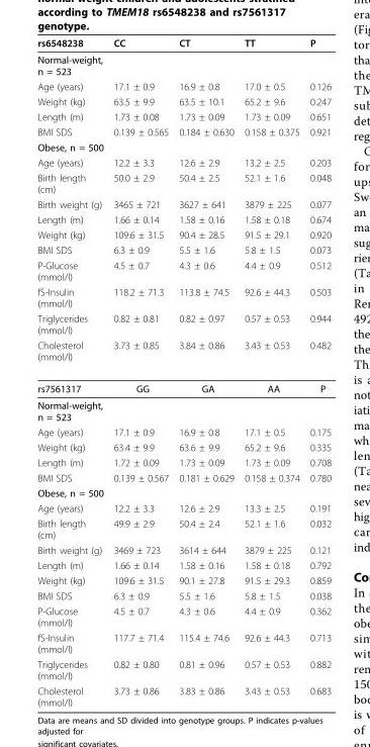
<table><thead><tr><td>rs6548238</td><td>CC</td><td>CT</td><td>TT</td><td>P</td></tr></thead><tbody><tr><td colspan="5">Normal-weight, n = 523</td></tr><tr><td>Age (years)</td><td>17.1 ± 0.9</td><td>16.9 ± 0.8</td><td>17.0 ± 0.5</td><td>0.126</td></tr><tr><td>Weight (kg)</td><td>63.5 ± 9.9</td><td>63.5 ± 10.1</td><td>65.2 ± 9.6</td><td>0.247</td></tr><tr><td>Length (m)</td><td>1.73 ± 0.08</td><td>1.73 ± 0.09</td><td>1.73 ± 0.09</td><td>0.651</td></tr><tr><td>BMI SDS</td><td>0.139 ± 0.565</td><td>0.184 ± 0.630</td><td>0.158 ± 0.375</td><td>0.921</td></tr><tr><td colspan="5">Obese, n = 500</td></tr><tr><td>Age (years)</td><td>12.2 ± 3.3</td><td>12.6 ± 2.9</td><td>13.2 ± 2.5</td><td>0.203</td></tr><tr><td>Birth length (cm)</td><td>50.0 ± 2.9</td><td>50.4 ± 2.5</td><td>52.1 ± 1.6</td><td>0.048</td></tr><tr><td>Birth weight (g)</td><td>3465 ± 721</td><td>3627 ± 641</td><td>3879 ± 225</td><td>0.077</td></tr><tr><td>Length (m)</td><td>1.66 ± 0.14</td><td>1.58 ± 0.16</td><td>1.58 ± 0.18</td><td>0.674</td></tr><tr><td>Weight (kg)</td><td>109.6 ± 31.5</td><td>90.4 ± 28.5</td><td>91.5 ± 29.1</td><td>0.920</td></tr><tr><td>BMI SDS</td><td>6.3 ± 0.9</td><td>5.5 ± 1.6</td><td>5.8 ± 1.5</td><td>0.073</td></tr><tr><td>P-Glucose (mmol/l)</td><td>4.5 ± 0.7</td><td>4.3 ± 0.6</td><td>4.4 ± 0.9</td><td>0.512</td></tr><tr><td>fS-Insulin (mmol/l)</td><td>118.2 ± 71.3</td><td>113.8 ± 74.5</td><td>92.6 ± 44.3</td><td>0.503</td></tr><tr><td>Triglycerides (mmol/l)</td><td>0.82 ± 0.81</td><td>0.82 ± 0.97</td><td>0.57 ± 0.53</td><td>0.944</td></tr><tr><td>Cholesterol (mmol/l)</td><td>3.73 ± 0.85</td><td>3.84 ± 0.86</td><td>3.43 ± 0.53</td><td>0.482</td></tr><tr><td>rs7561317</td><td>GG</td><td>GA</td><td>AA</td><td>P</td></tr><tr><td colspan="5">Normal-weight, n = 523</td></tr><tr><td>Age (years)</td><td>17.1 ± 0.9</td><td>16.9 ± 0.8</td><td>17.1 ± 0.5</td><td>0.175</td></tr><tr><td>Weight (kg)</td><td>63.4 ± 9.9</td><td>63.6 ± 9.9</td><td>65.2 ± 9.6</td><td>0.335</td></tr><tr><td>Length (m)</td><td>1.72 ± 0.09</td><td>1.73 ± 0.09</td><td>1.73 ± 0.09</td><td>0.708</td></tr><tr><td>BMI SDS</td><td>0.139 ± 0.567</td><td>0.181 ± 0.629</td><td>0.158 ± 0.374</td><td>0.780</td></tr><tr><td colspan="5">Obese, n = 500</td></tr><tr><td>Age (years)</td><td>12.2 ± 3.3</td><td>12.6 ± 2.9</td><td>13.3 ± 2.5</td><td>0.191</td></tr><tr><td>Birth length (cm)</td><td>49.9 ± 2.9</td><td>50.4 ± 2.4</td><td>52.1 ± 1.6</td><td>0.032</td></tr><tr><td>Birth weight (g)</td><td>3469 ± 723</td><td>3614 ± 644</td><td>3879 ± 225</td><td>0.121</td></tr><tr><td>Length (m)</td><td>1.66 ± 0.14</td><td>1.58 ± 0.16</td><td>1.58 ± 0.18</td><td>0.792</td></tr><tr><td>Weight (kg)</td><td>109.6 ± 31.5</td><td>90.1 ± 27.8</td><td>91.5 ± 29.3</td><td>0.859</td></tr><tr><td>BMI SDS</td><td>6.3 ± 0.9</td><td>5.5 ± 1.6</td><td>5.8 ± 1.5</td><td>0.038</td></tr><tr><td>P-Glucose (mmol/l)</td><td>4.5 ± 0.7</td><td>4.3 ± 0.6</td><td>4.4 ± 0.9</td><td>0.362</td></tr><tr><td>fS-Insulin (mmol/l)</td><td>117.7 ± 71.4</td><td>115.4 ± 74.6</td><td>92.6 ± 44.3</td><td>0.713</td></tr><tr><td>Triglycerides (mmol/l)</td><td>0.82 ± 0.80</td><td>0.81 ± 0.96</td><td>0.57 ± 0.53</td><td>0.882</td></tr><tr><td>Cholesterol (mmol/l)</td><td>3.73 ± 0.86</td><td>3.83 ± 0.86</td><td>3.43 ± 0.53</td><td>0.683</td></tr></tbody></table>